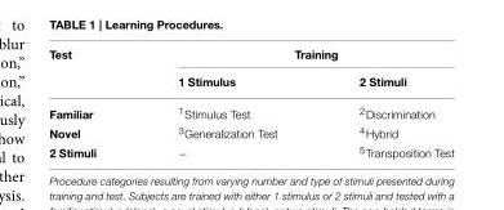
<table><thead><tr><td rowspan="2">Test</td><td colspan="2">Training</td></tr><tr><td>1 Stimulus</td><td>2 Stimuli</td></tr></thead><tbody><tr><td>Familiar</td><td><sup>1</sup>Stimulus Test</td><td><sup>2</sup>Discrimination</td></tr><tr><td>Novel</td><td><sup>3</sup>Generalization Test</td><td><sup>4</sup>Hybrid</td></tr><tr><td>2 Stimuli</td><td>−</td><td><sup>5</sup>Transposition Test</td></tr></tbody></table>